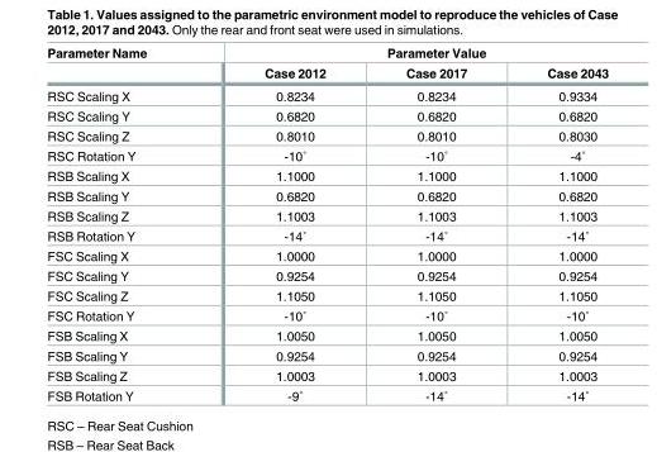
<table><thead><tr><td rowspan="2">Parameter Name</td><td colspan="3">Parameter Value</td></tr><tr><td>Case 2012</td><td>Case 2017</td><td>Case 2043</td></tr></thead><tbody><tr><td>RSC Scaling X</td><td>0.8234</td><td>0.8234</td><td>0.9334</td></tr><tr><td>RSC Scaling Y</td><td>0.6820</td><td>0.6820</td><td>0.6820</td></tr><tr><td>RSC Scaling Z</td><td>0.8010</td><td>0.8010</td><td>0.8030</td></tr><tr><td>RSC Rotation Y</td><td>-10˚</td><td>-10˚</td><td>-4˚</td></tr><tr><td>RSB Scaling X</td><td>1.1000</td><td>1.1000</td><td>1.1000</td></tr><tr><td>RSB Scaling Y</td><td>0.6820</td><td>0.6820</td><td>0.6820</td></tr><tr><td>RSB Scaling Z</td><td>1.1003</td><td>1.1003</td><td>1.1003</td></tr><tr><td>RSB Rotation Y</td><td>-14˚</td><td>-14˚</td><td>-14˚</td></tr><tr><td>FSC Scaling X</td><td>1.0000</td><td>1.0000</td><td>1.0000</td></tr><tr><td>FSC Scaling Y</td><td>0.9254</td><td>0.9254</td><td>0.9254</td></tr><tr><td>FSC Scaling Z</td><td>1.1050</td><td>1.1050</td><td>1.1050</td></tr><tr><td>FSC Rotation Y</td><td>-10˚</td><td>-10˚</td><td>-10˚</td></tr><tr><td>FSB Scaling X</td><td>1.0050</td><td>1.0050</td><td>1.0050</td></tr><tr><td>FSB Scaling Y</td><td>0.9254</td><td>0.9254</td><td>0.9254</td></tr><tr><td>FSB Scaling Z</td><td>1.0003</td><td>1.0003</td><td>1.0003</td></tr><tr><td>FSB Rotation Y</td><td>-9˚</td><td>-14˚</td><td>-14˚</td></tr></tbody></table>